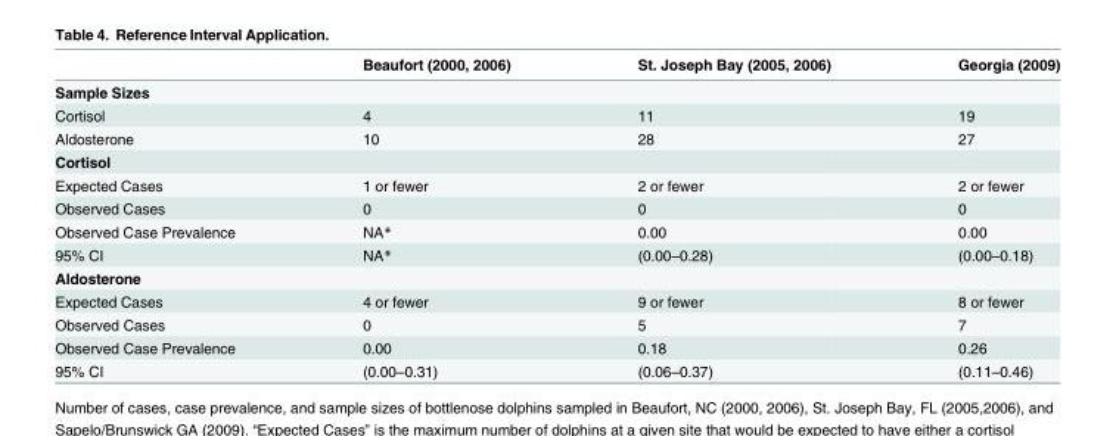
<table><thead><tr><td></td><td>Beaufort (2000, 2006)</td><td>St. Joseph Bay (2005, 2006)</td><td>Georgia (2009)</td></tr></thead><tbody><tr><td colspan="4">Sample Sizes</td></tr><tr><td>Cortisol</td><td>4</td><td>11</td><td>19</td></tr><tr><td>Aldosterone</td><td>10</td><td>28</td><td>27</td></tr><tr><td colspan="4">Cortisol</td></tr><tr><td>Expected Cases</td><td>1 or fewer</td><td>2 or fewer</td><td>2 or fewer</td></tr><tr><td>Observed Cases</td><td>0</td><td>0</td><td>0</td></tr><tr><td>Observed Case Prevalence</td><td>NA*</td><td>0.00</td><td>0.00</td></tr><tr><td>95% CI</td><td>NA*</td><td>(0.00–0.28)</td><td>(0.00–0.18)</td></tr><tr><td colspan="4">Aldosterone</td></tr><tr><td>Expected Cases</td><td>4 or fewer</td><td>9 or fewer</td><td>8 or fewer</td></tr><tr><td>Observed Cases</td><td>0</td><td>5</td><td>7</td></tr><tr><td>Observed Case Prevalence</td><td>0.00</td><td>0.18</td><td>0.26</td></tr><tr><td>95% CI</td><td>(0.00–0.31)</td><td>(0.06–0.37)</td><td>(0.11–0.46)</td></tr></tbody></table>